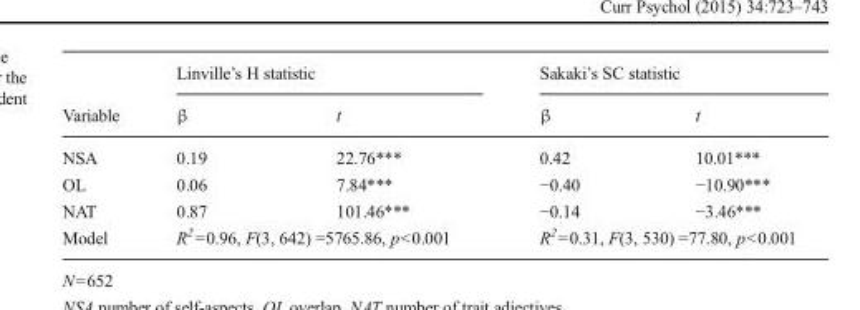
<table><thead><tr><td rowspan="2">Variable</td><td colspan="2">Linville’s H statistic</td><td colspan="2">Sakaki’s SC statistic</td></tr><tr><td>β</td><td>t</td><td>β</td><td>t</td></tr></thead><tbody><tr><td>NSA</td><td>0.19</td><td>22.76***</td><td>0.42</td><td>10.01***</td></tr><tr><td>OL</td><td>0.06</td><td>7.84***</td><td>−0.40</td><td>−10.90***</td></tr><tr><td>NAT</td><td>0.87</td><td>101.46***</td><td>−0.14</td><td>−3.46***</td></tr><tr><td>Model</td><td colspan="2">R<sup>2</sup>=0.96, F(3, 642) =5765.86, p&lt;0.001</td><td colspan="2">R<sup>2</sup>=0.31, F(3, 530) =77.80, p&lt;0.001</td></tr></tbody></table>